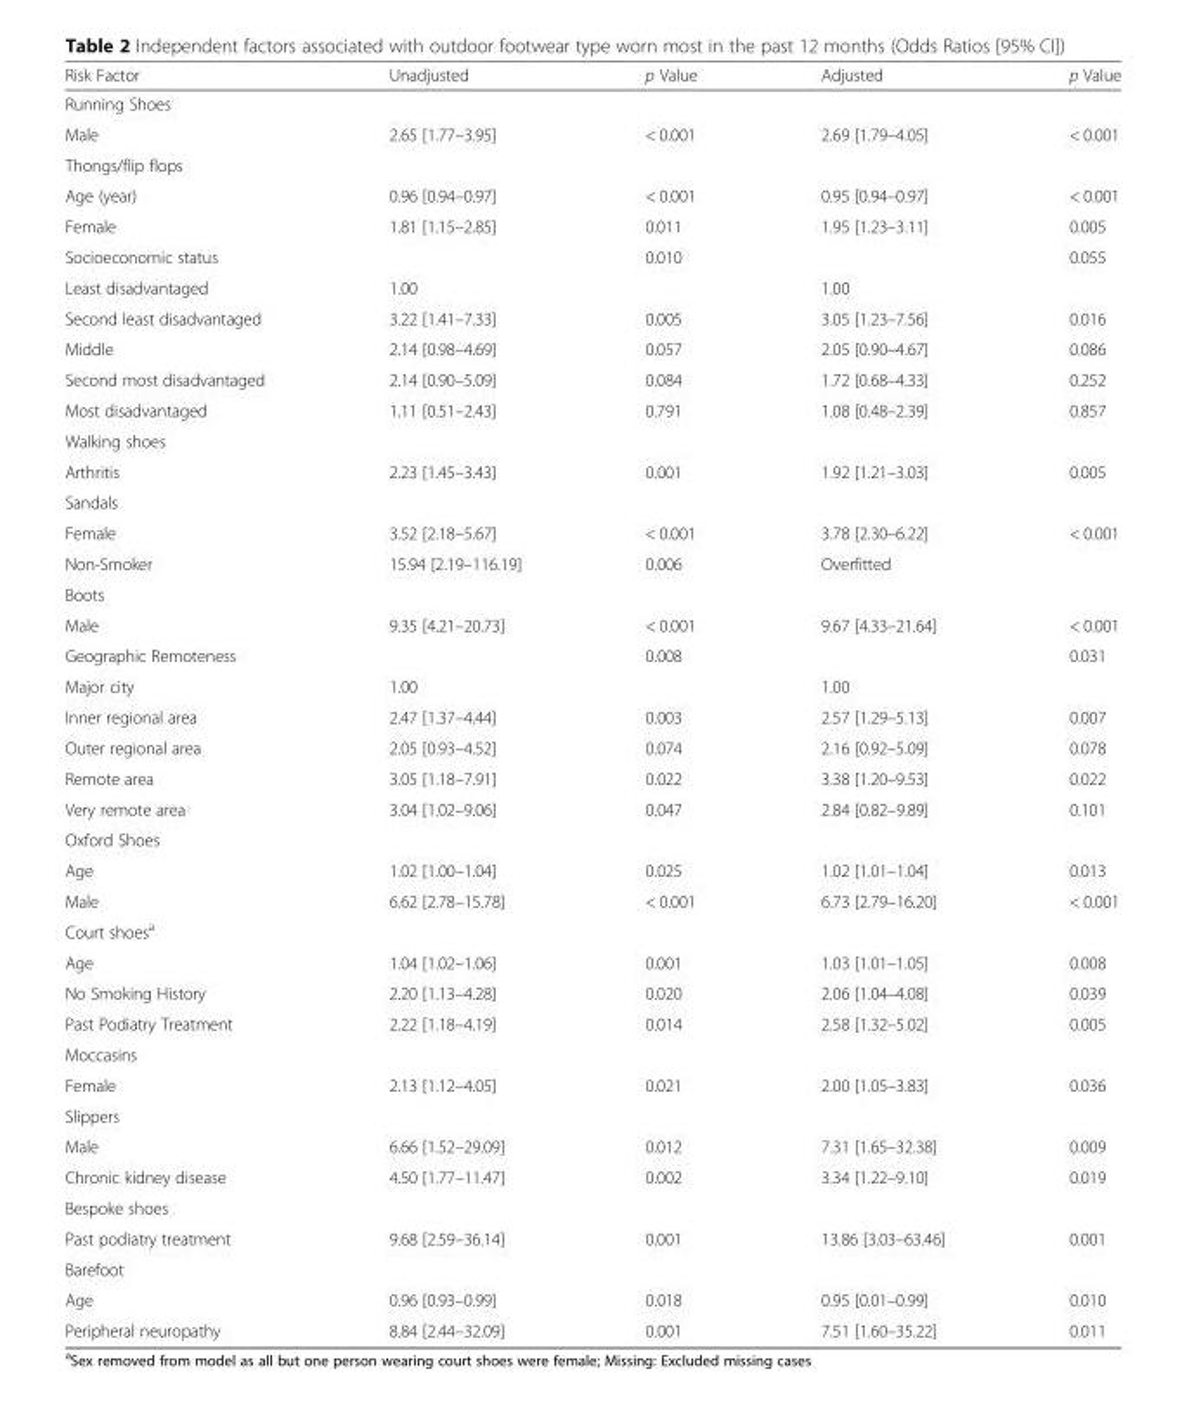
<table><thead><tr><td>Risk Factor</td><td>Unadjusted</td><td>p Value</td><td>Adjusted</td><td>p Value</td></tr></thead><tbody><tr><td colspan="5">Running Shoes</td></tr><tr><td>Male</td><td>2.65 [1.77–3.95]</td><td>&lt; 0.001</td><td>2.69 [1.79–4.05]</td><td>&lt; 0.001</td></tr><tr><td colspan="5">Thongs/flip flops</td></tr><tr><td>Age (year)</td><td>0.96 [0.94–0.97]</td><td>&lt; 0.001</td><td>0.95 [0.94–0.97]</td><td>&lt; 0.001</td></tr><tr><td>Female</td><td>1.81 [1.15–2.85]</td><td>0.011</td><td>1.95 [1.23–3.11]</td><td>0.005</td></tr><tr><td>Socioeconomic status</td><td></td><td>0.010</td><td></td><td>0.055</td></tr><tr><td>Least disadvantaged</td><td>1.00</td><td></td><td>1.00</td><td></td></tr><tr><td>Second least disadvantaged</td><td>3.22 [1.41–7.33]</td><td>0.005</td><td>3.05 [1.23–7.56]</td><td>0.016</td></tr><tr><td>Middle</td><td>2.14 [0.98–4.69]</td><td>0.057</td><td>2.05 [0.90–4.67]</td><td>0.086</td></tr><tr><td>Second most disadvantaged</td><td>2.14 [0.90–5.09]</td><td>0.084</td><td>1.72 [0.68–4.33]</td><td>0.252</td></tr><tr><td>Most disadvantaged</td><td>1.11 [0.51–2.43]</td><td>0.791</td><td>1.08 [0.48–2.39]</td><td>0.857</td></tr><tr><td colspan="5">Walking shoes</td></tr><tr><td>Arthritis</td><td>2.23 [1.45–3.43]</td><td>0.001</td><td>1.92 [1.21–3.03]</td><td>0.005</td></tr><tr><td colspan="5">Sandals</td></tr><tr><td>Female</td><td>3.52 [2.18–5.67]</td><td>&lt; 0.001</td><td>3.78 [2.30–6.22]</td><td>&lt; 0.001</td></tr><tr><td>Non-Smoker</td><td>15.94 [2.19–116.19]</td><td>0.006</td><td>Overfitted</td><td></td></tr><tr><td colspan="5">Boots</td></tr><tr><td>Male</td><td>9.35 [4.21–20.73]</td><td>&lt; 0.001</td><td>9.67 [4.33–21.64]</td><td>&lt; 0.001</td></tr><tr><td>Geographic Remoteness</td><td></td><td>0.008</td><td></td><td>0.031</td></tr><tr><td>Major city</td><td>1.00</td><td></td><td>1.00</td><td></td></tr><tr><td>Inner regional area</td><td>2.47 [1.37–4.44]</td><td>0.003</td><td>2.57 [1.29–5.13]</td><td>0.007</td></tr><tr><td>Outer regional area</td><td>2.05 [0.93–4.52]</td><td>0.074</td><td>2.16 [0.92–5.09]</td><td>0.078</td></tr><tr><td>Remote area</td><td>3.05 [1.18–7.91]</td><td>0.022</td><td>3.38 [1.20–9.53]</td><td>0.022</td></tr><tr><td>Very remote area</td><td>3.04 [1.02–9.06]</td><td>0.047</td><td>2.84 [0.82–9.89]</td><td>0.101</td></tr><tr><td colspan="5">Oxford Shoes</td></tr><tr><td>Age</td><td>1.02 [1.00–1.04]</td><td>0.025</td><td>1.02 [1.01–1.04]</td><td>0.013</td></tr><tr><td>Male</td><td>6.62 [2.78–15.78]</td><td>&lt; 0.001</td><td>6.73 [2.79–16.20]</td><td>&lt; 0.001</td></tr><tr><td colspan="5">Court shoes<sup>a</sup></td></tr><tr><td>Age</td><td>1.04 [1.02–1.06]</td><td>0.001</td><td>1.03 [1.01–1.05]</td><td>0.008</td></tr><tr><td>No Smoking History</td><td>2.20 [1.13–4.28]</td><td>0.020</td><td>2.06 [1.04–4.08]</td><td>0.039</td></tr><tr><td>Past Podiatry Treatment</td><td>2.22 [1.18–4.19]</td><td>0.014</td><td>2.58 [1.32–5.02]</td><td>0.005</td></tr><tr><td colspan="5">Moccasins</td></tr><tr><td>Female</td><td>2.13 [1.12–4.05]</td><td>0.021</td><td>2.00 [1.05–3.83]</td><td>0.036</td></tr><tr><td colspan="5">Slippers</td></tr><tr><td>Male</td><td>6.66 [1.52–29.09]</td><td>0.012</td><td>7.31 [1.65–32.38]</td><td>0.009</td></tr><tr><td>Chronic kidney disease</td><td>4.50 [1.77–11.47]</td><td>0.002</td><td>3.34 [1.22–9.10]</td><td>0.019</td></tr><tr><td colspan="5">Bespoke shoes</td></tr><tr><td>Past podiatry treatment</td><td>9.68 [2.59–36.14]</td><td>0.001</td><td>13.86 [3.03–63.46]</td><td>0.001</td></tr><tr><td colspan="5">Barefoot</td></tr><tr><td>Age</td><td>0.96 [0.93–0.99]</td><td>0.018</td><td>0.95 [0.01–0.99]</td><td>0.010</td></tr><tr><td>Peripheral neuropathy</td><td>8.84 [2.44–32.09]</td><td>0.001</td><td>7.51 [1.60–35.22]</td><td>0.011</td></tr></tbody></table>